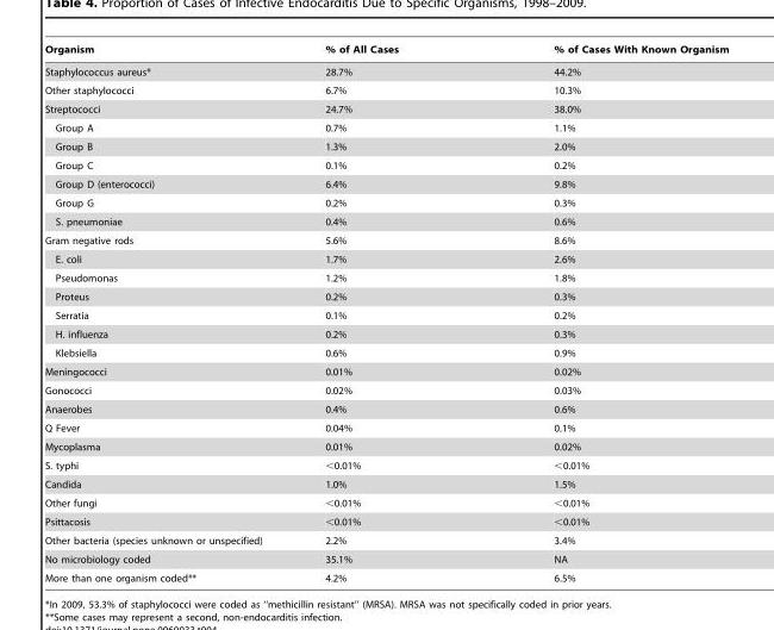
<table><thead><tr><td>Organism</td><td>% of All Cases</td><td>% of Cases With Known Organism</td></tr></thead><tbody><tr><td>Staphylococcus aureus*</td><td>28.7%</td><td>44.2%</td></tr><tr><td>Other staphylococci</td><td>6.7%</td><td>10.3%</td></tr><tr><td>Streptococci</td><td>24.7%</td><td>38.0%</td></tr><tr><td>Group A</td><td>0.7%</td><td>1.1%</td></tr><tr><td>Group B</td><td>1.3%</td><td>2.0%</td></tr><tr><td>Group C</td><td>0.1%</td><td>0.2%</td></tr><tr><td>Group D (enterococci)</td><td>6.4%</td><td>9.8%</td></tr><tr><td>Group G</td><td>0.2%</td><td>0.3%</td></tr><tr><td>S. pneumoniae</td><td>0.4%</td><td>0.6%</td></tr><tr><td>Gram negative rods</td><td>5.6%</td><td>8.6%</td></tr><tr><td>E. coli</td><td>1.7%</td><td>2.6%</td></tr><tr><td>Pseudomonas</td><td>1.2%</td><td>1.8%</td></tr><tr><td>Proteus</td><td>0.2%</td><td>0.3%</td></tr><tr><td>Serratia</td><td>0.1%</td><td>0.2%</td></tr><tr><td>H. influenza</td><td>0.2%</td><td>0.3%</td></tr><tr><td>Klebsiella</td><td>0.6%</td><td>0.9%</td></tr><tr><td>Meningococci</td><td>0.01%</td><td>0.02%</td></tr><tr><td>Gonococci</td><td>0.02%</td><td>0.03%</td></tr><tr><td>Anaerobes</td><td>0.4%</td><td>0.6%</td></tr><tr><td>Q Fever</td><td>0.04%</td><td>0.1%</td></tr><tr><td>Mycoplasma</td><td>0.01%</td><td>0.02%</td></tr><tr><td>S. typhi</td><td>&lt;0.01%</td><td>&lt;0.01%</td></tr><tr><td>Candida</td><td>1.0%</td><td>1.5%</td></tr><tr><td>Other fungi</td><td>&lt;0.01%</td><td>&lt;0.01%</td></tr><tr><td>Psittacosis</td><td>&lt;0.01%</td><td>&lt;0.01%</td></tr><tr><td>Other bacteria (species unknown or unspecified)</td><td>2.2%</td><td>3.4%</td></tr><tr><td>No microbiology coded</td><td>35.1%</td><td>NA</td></tr><tr><td>More than one organism coded**</td><td>4.2%</td><td>6.5%</td></tr></tbody></table>